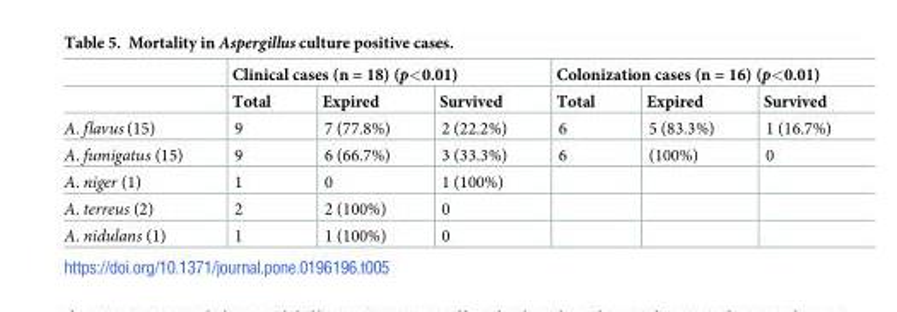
<table><thead><tr><td rowspan="2"></td><td colspan="3">Clinical cases (n = 18) (p&lt;0.01)</td><td colspan="3">Colonization cases (n = 16) (p&lt;0.01)</td></tr><tr><td>Total</td><td>Expired</td><td>Survived</td><td>Total</td><td>Expired</td><td>Survived</td></tr></thead><tbody><tr><td>A. flavus (15)</td><td>9</td><td>7 (77.8%)</td><td>2 (22.2%)</td><td>6</td><td>5 (83.3%)</td><td>1 (16.7%)</td></tr><tr><td>A. fumigatus (15)</td><td>9</td><td>6 (66.7%)</td><td>3 (33.3%)</td><td>6</td><td>(100%)</td><td>0</td></tr><tr><td>A. niger (1)</td><td>1</td><td>0</td><td>1 (100%)</td><td></td><td></td><td></td></tr><tr><td>A. terreus (2)</td><td>2</td><td>2 (100%)</td><td>0</td><td></td><td></td><td></td></tr><tr><td>A. nidulans (1)</td><td>1</td><td>1 (100%)</td><td>0</td><td></td><td></td><td></td></tr></tbody></table>